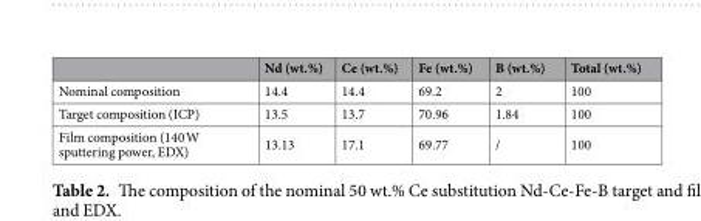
<table><thead><tr><td></td><td>Nd (wt.%)</td><td>Ce (wt.%)</td><td>Fe (wt.%)</td><td>B (wt.%)</td><td>Total (wt.%)</td></tr></thead><tbody><tr><td>Nominal composition</td><td>14.4</td><td>14.4</td><td>69.2</td><td>2</td><td>100</td></tr><tr><td>Target composition (ICP)</td><td>13.5</td><td>13.7</td><td>70.96</td><td>1.84</td><td>100</td></tr><tr><td>Film composition (140 W sputtering power, EDX)</td><td>13.13</td><td>17.1</td><td>69.77</td><td>/</td><td>100</td></tr></tbody></table>